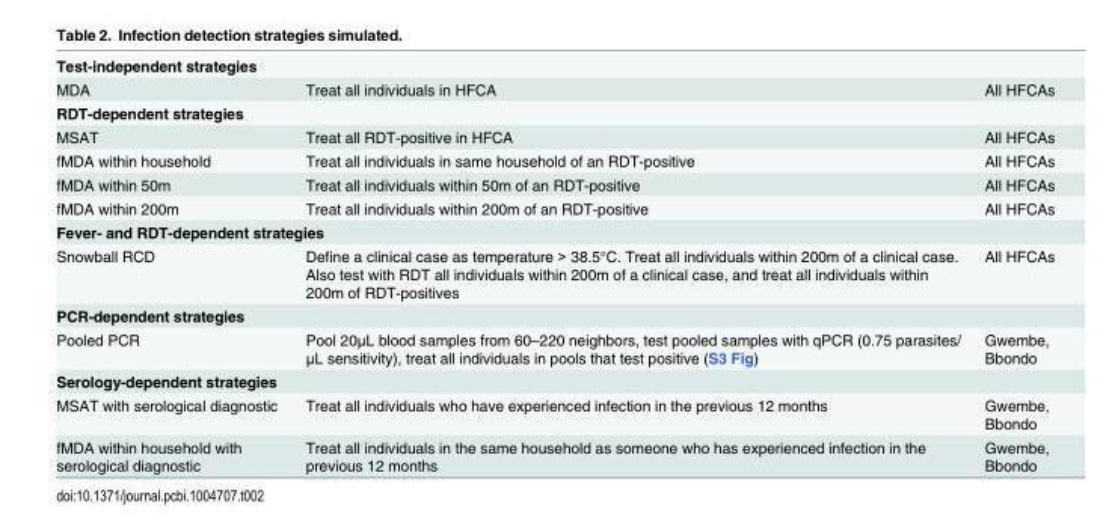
<table><tbody><tr><td colspan="3">Test-independent strategies</td></tr><tr><td>MDA</td><td>Treat all individuals in HFCA</td><td>All HFCAs</td></tr><tr><td colspan="3">RDT-dependent strategies</td></tr><tr><td>MSAT</td><td>Treat all RDT-positive in HFCA</td><td>All HFCAs</td></tr><tr><td>fMDA within household</td><td>Treat all individuals in same household of an RDT-positive</td><td>All HFCAs</td></tr><tr><td>fMDA within 50m</td><td>Treat all individuals within 50m of an RDT-positive</td><td>All HFCAs</td></tr><tr><td>fMDA within 200m</td><td>Treat all individuals within 200m of an RDT-positive</td><td>All HFCAs</td></tr><tr><td colspan="3">Fever- and RDT-dependent strategies</td></tr><tr><td>Snowball RCD</td><td>Define a clinical case as temperature &gt; 38.5°C. Treat all individuals within 200m of a clinical case. Also test with RDT all individuals within 200m of a clinical case, and treat all individuals within 200m of RDT-positives</td><td>All HFCAs</td></tr><tr><td colspan="3">PCR-dependent strategies</td></tr><tr><td>Pooled PCR</td><td>Pool 20μL blood samples from 60–220 neighbors, test pooled samples with qPCR (0.75 parasites/ μL sensitivity), treat all individuals in pools that test positive (S3 Fig)</td><td>Gwembe, Bbondo</td></tr><tr><td colspan="3">Serology-dependent strategies</td></tr><tr><td>MSAT with serological diagnostic</td><td>Treat all individuals who have experienced infection in the previous 12 months</td><td>Gwembe, Bbondo</td></tr><tr><td>fMDA within household with serological diagnostic</td><td>Treat all individuals in the same household as someone who has experienced infection in the previous 12 months</td><td>Gwembe, Bbondo</td></tr></tbody></table>